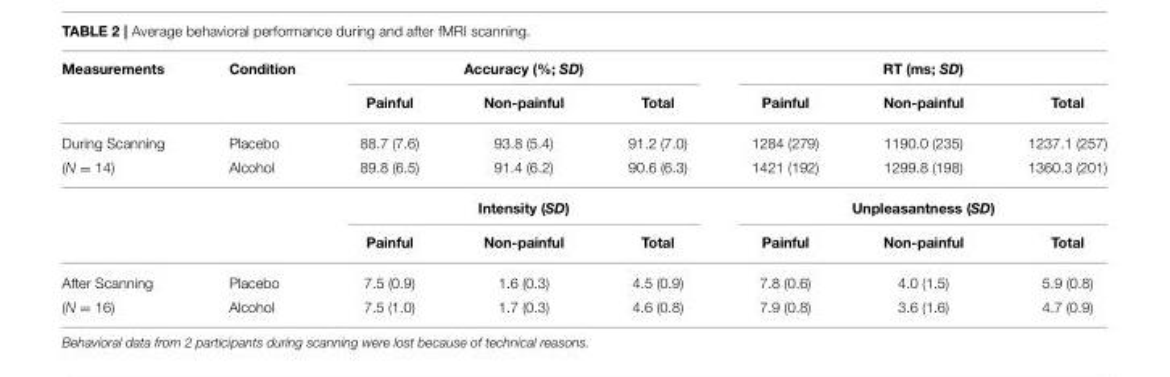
<table><thead><tr><td rowspan="2">Measurements</td><td rowspan="2">Condition</td><td colspan="3">Accuracy (%; SD)</td><td colspan="3">RT (ms; SD)</td></tr><tr><td>Painful</td><td>Non-painful</td><td>Total</td><td>Painful</td><td>Non-painful</td><td>Total</td></tr></thead><tbody><tr><td>During Scanning</td><td>Placebo</td><td>88.7 (7.6)</td><td>93.8 (5.4)</td><td>91.2 (7.0)</td><td>1284 (279)</td><td>1190.0 (235)</td><td>1237.1 (257)</td></tr><tr><td rowspan="3">(N = 14)</td><td>Alcohol</td><td>89.8 (6.5)</td><td>91.4 (6.2)</td><td>90.6 (6.3)</td><td>1421 (192)</td><td>1299.8 (198)</td><td>1360.3 (201)</td></tr><tr><td></td><td colspan="3">Intensity (SD)</td><td colspan="3">Unpleasantness (SD)</td></tr><tr><td></td><td>Painful</td><td>Non-painful</td><td>Total</td><td>Painful</td><td>Non-painful</td><td>Total</td></tr><tr><td>After Scanning</td><td>Placebo</td><td>7.5 (0.9)</td><td>1.6 (0.3)</td><td>4.5 (0.9)</td><td>7.8 (0.6)</td><td>4.0 (1.5)</td><td>5.9 (0.8)</td></tr><tr><td>(N = 16)</td><td>Alcohol</td><td>7.5 (1.0)</td><td>1.7 (0.3)</td><td>4.6 (0.8)</td><td>7.9 (0.8)</td><td>3.6 (1.6)</td><td>4.7 (0.9)</td></tr></tbody></table>